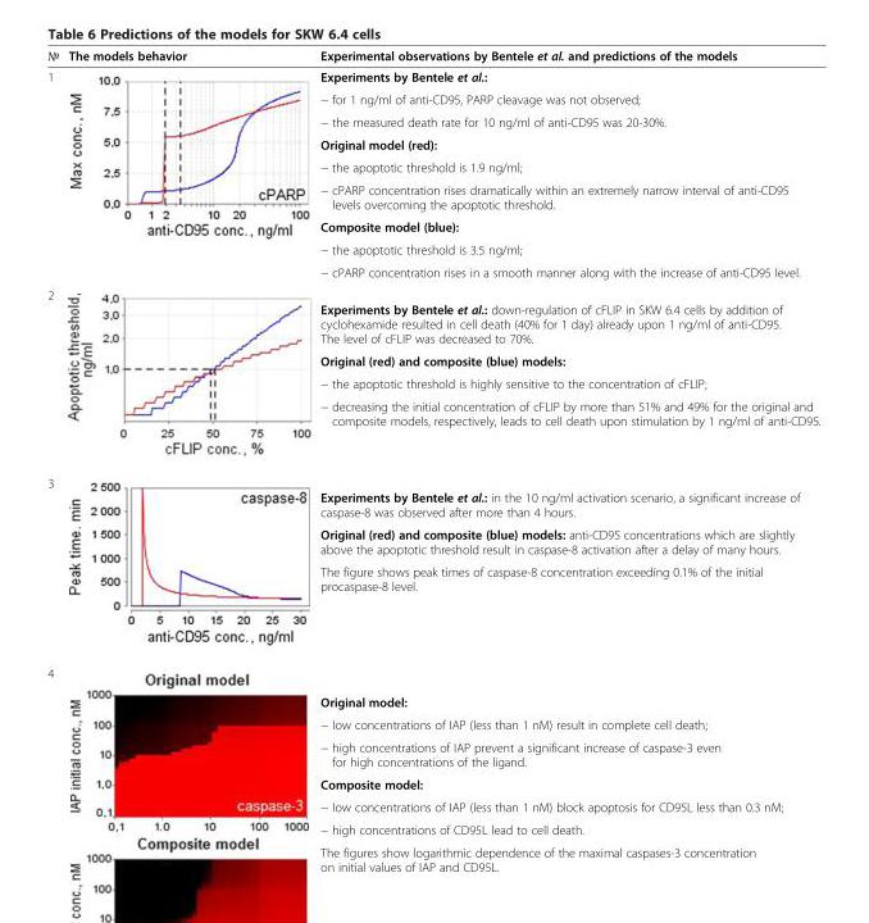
<table><thead><tr><td>№</td><td>The models behavior</td><td>Experimental observations by Bentele et al. and predictions of the models</td></tr></thead><tbody><tr><td rowspan="9">1</td><td></td><td>Experiments by Bentele et al.:</td></tr><tr><td></td><td>− for 1 ng/ml of anti-CD95, PARP cleavage was not observed;</td></tr><tr><td></td><td>− the measured death rate for 10 ng/ml of anti-CD95 was 20-30%.</td></tr><tr><td></td><td>Original model (red):</td></tr><tr><td></td><td>− the apoptotic threshold is 1.9 ng/ml;</td></tr><tr><td></td><td>− cPARP concentration rises dramatically within an extremely narrow interval of anti-CD95 levels overcoming the apoptotic threshold.</td></tr><tr><td></td><td>Composite model (blue):</td></tr><tr><td></td><td>− the apoptotic threshold is 3.5 ng/ml;</td></tr><tr><td></td><td>− cPARP concentration rises in a smooth manner along with the increase of anti-CD95 level.</td></tr><tr><td rowspan="4">2</td><td></td><td>Experiments by Bentele et al.: down-regulation of cFLIP in SKW 6.4 cells by addition of cyclohexamide resulted in cell death (40% for 1 day) already upon 1 ng/ml of anti-CD95. The level of cFLIP was decreased to 70%.</td></tr><tr><td></td><td>Original (red) and composite (blue) models:</td></tr><tr><td></td><td>− the apoptotic threshold is highly sensitive to the concentration of cFLIP;</td></tr><tr><td></td><td>− decreasing the initial concentration of cFLIP by more than 51% and 49% for the original and composite models, respectively, leads to cell death upon stimulation by 1 ng/ml of anti-CD95.</td></tr><tr><td rowspan="3">3</td><td></td><td>Experiments by Bentele et al.: in the 10 ng/ml activation scenario, a significant increase of caspase-8 was observed after more than 4 hours.</td></tr><tr><td></td><td>Original (red) and composite (blue) models: anti-CD95 concentrations which are slightly above the apoptotic threshold result in caspase-8 activation after a delay of many hours.</td></tr><tr><td></td><td>The figure shows peak times of caspase-8 concentration exceeding 0.1% of the initial procaspase-8 level.</td></tr><tr><td rowspan="7">4</td><td></td><td>Original model:</td></tr><tr><td></td><td>− low concentrations of IAP (less than 1 nM) result in complete cell death;</td></tr><tr><td></td><td>− high concentrations of IAP prevent a significant increase of caspase-3 even for high concentrations of the ligand.</td></tr><tr><td></td><td>Composite model:</td></tr><tr><td></td><td>− low concentrations of IAP (less than 1 nM) block apoptosis for CD95L less than 0.3 nM;</td></tr><tr><td></td><td>− high concentrations of CD95L lead to cell death.</td></tr><tr><td></td><td>The figures show logarithmic dependence of the maximal caspases-3 concentration on initial values of IAP and CD95L.</td></tr></tbody></table>